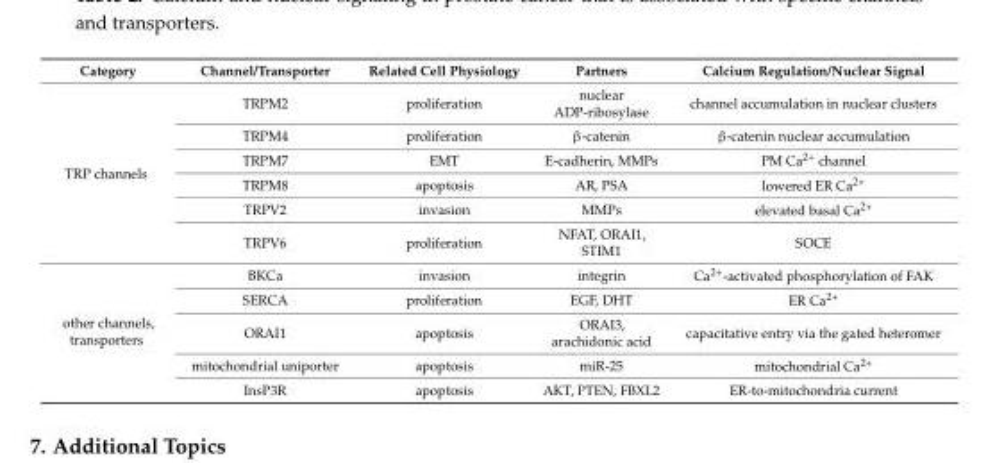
<table><thead><tr><td>Category</td><td>Channel/Transporter</td><td>Related Cell Physiology</td><td>Partners</td><td>Calcium Regulation/Nuclear Signal</td></tr></thead><tbody><tr><td rowspan="6">TRP channels</td><td>TRPM2</td><td>proliferation</td><td>nuclear ADP-ribosylase</td><td>channel accumulation in nuclear clusters</td></tr><tr><td>TRPM4</td><td>proliferation</td><td>β-catenin</td><td>β-catenin nuclear accumulation</td></tr><tr><td>TRPM7</td><td>EMT</td><td>E-cadherin, MMPs</td><td>PM Ca<sup>2+</sup> channel</td></tr><tr><td>TRPM8</td><td>apoptosis</td><td>AR, PSA</td><td>lowered ER Ca<sup>2+</sup></td></tr><tr><td>TRPV2</td><td>invasion</td><td>MMPs</td><td>elevated basal Ca<sup>2+</sup></td></tr><tr><td>TRPV6</td><td>proliferation</td><td>NFAT, ORAI1, STIM1</td><td>SOCE</td></tr><tr><td rowspan="5">other channels, transporters</td><td>BKCa</td><td>invasion</td><td>integrin</td><td>Ca<sup>2+</sup>-activated phosphorylation of FAK</td></tr><tr><td>SERCA</td><td>proliferation</td><td>EGF, DHT</td><td>ER Ca<sup>2+</sup></td></tr><tr><td>ORAI1</td><td>apoptosis</td><td>ORAI3, arachidonic acid</td><td>capacitative entry via the gated heteromer</td></tr><tr><td>mitochondrial uniporter</td><td>apoptosis</td><td>miR-25</td><td>mitochondrial Ca<sup>2+</sup></td></tr><tr><td>InsP3R</td><td>apoptosis</td><td>AKT, PTEN, FBXL2</td><td>ER-to-mitochondria current</td></tr></tbody></table>